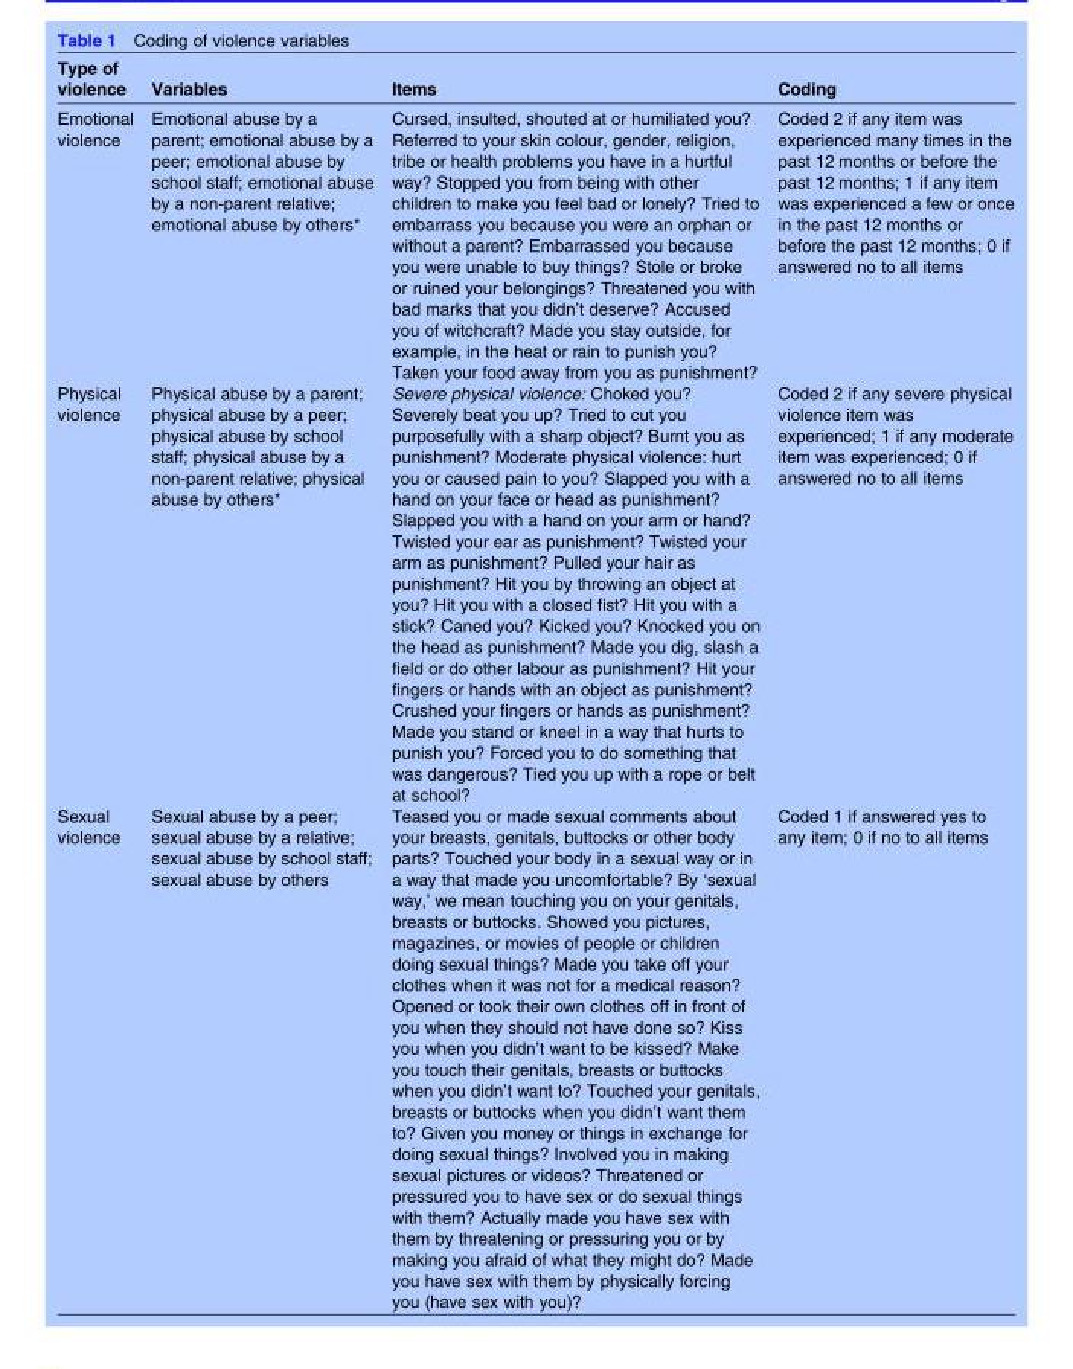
<table><thead><tr><td>Type of violence</td><td>Variables</td><td>Items</td><td>Coding</td></tr></thead><tbody><tr><td>Emotional violence</td><td>Emotional abuse by a parent; emotional abuse by a peer; emotional abuse by school staff; emotional abuse by a non-parent relative; emotional abuse by others*</td><td>Cursed, insulted, shouted at or humiliated you? Referred to your skin colour, gender, religion, tribe or health problems you have in a hurtful way? Stopped you from being with other children to make you feel bad or lonely? Tried to embarrass you because you were an orphan or without a parent? Embarrassed you because you were unable to buy things? Stole or broke or ruined your belongings? Threatened you with bad marks that you didn’t deserve? Accused you of witchcraft? Made you stay outside, for example, in the heat or rain to punish you? Taken your food away from you as punishment?</td><td>Coded 2 if any item was experienced many times in the past 12 months or before the past 12 months; 1 if any item was experienced a few or once in the past 12 months or before the past 12 months; 0 if answered no to all items</td></tr><tr><td>Physical violence</td><td>Physical abuse by a parent; physical abuse by a peer; physical abuse by school staff; physical abuse by a non-parent relative; physical abuse by others*</td><td>Severe physical violence: Choked you? Severely beat you up? Tried to cut you purposefully with a sharp object? Burnt you as punishment? Moderate physical violence: hurt you or caused pain to you? Slapped you with a hand on your face or head as punishment? Slapped you with a hand on your arm or hand? Twisted your ear as punishment? Twisted your arm as punishment? Pulled your hair as punishment? Hit you by throwing an object at you? Hit you with a closed fist? Hit you with a stick? Caned you? Kicked you? Knocked you on the head as punishment? Made you dig, slash a field or do other labour as punishment? Hit your fingers or hands with an object as punishment? Crushed your fingers or hands as punishment? Made you stand or kneel in a way that hurts to punish you? Forced you to do something that was dangerous? Tied you up with a rope or belt at school?</td><td>Coded 2 if any severe physical violence item was experienced; 1 if any moderate item was experienced; 0 if answered no to all items</td></tr><tr><td>Sexual violence</td><td>Sexual abuse by a peer; sexual abuse by a relative; sexual abuse by school staff; sexual abuse by others</td><td>Teased you or made sexual comments about your breasts, genitals, buttocks or other body parts? Touched your body in a sexual way or in a way that made you uncomfortable? By ‘sexual way,’ we mean touching you on your genitals, breasts or buttocks. Showed you pictures, magazines, or movies of people or children doing sexual things? Made you take off your clothes when it was not for a medical reason? Opened or took their own clothes off in front of you when they should not have done so? Kiss you when you didn’t want to be kissed? Make you touch their genitals, breasts or buttocks when you didn’t want to? Touched your genitals, breasts or buttocks when you didn’t want them to? Given you money or things in exchange for doing sexual things? Involved you in making sexual pictures or videos? Threatened or pressured you to have sex or do sexual things with them? Actually made you have sex with them by threatening or pressuring you or by making you afraid of what they might do? Made you have sex with them by physically forcing you (have sex with you)?</td><td>Coded 1 if answered yes to any item; 0 if no to all items</td></tr></tbody></table>